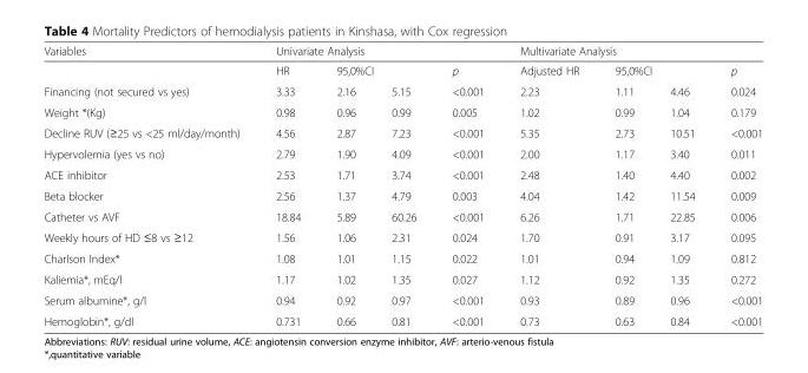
<table><thead><tr><td rowspan="3">Variables Financing (not secured vs yes)</td><td colspan="4">Univariate Analysis</td><td colspan="4">Multivariate Analysis</td></tr><tr><td rowspan="2">HR 3.33</td><td colspan="2">95,0%CI</td><td rowspan="2">p &lt;0.001</td><td rowspan="2">Adjusted HR 2.23</td><td colspan="2">95,0%CI</td><td rowspan="2">p 0.024</td></tr><tr><td>2.16</td><td>5.15</td><td>1.11</td><td>4.46</td></tr></thead><tbody><tr><td>Weight *(Kg)</td><td>0.98</td><td>0.96</td><td>0.99</td><td>0.005</td><td>1.02</td><td>0.99</td><td>1.04</td><td>0.179</td></tr><tr><td>Decline RUV (≥25 vs &lt;25 ml/day/month)</td><td>4.56</td><td>2.87</td><td>7.23</td><td>&lt;0.001</td><td>5.35</td><td>2.73</td><td>10.51</td><td>&lt;0.001</td></tr><tr><td>Hypervolemia (yes vs no)</td><td>2.79</td><td>1.90</td><td>4.09</td><td>&lt;0.001</td><td>2.00</td><td>1.17</td><td>3.40</td><td>0.011</td></tr><tr><td>ACE inhibitor</td><td>2.53</td><td>1.71</td><td>3.74</td><td>&lt;0.001</td><td>2.48</td><td>1.40</td><td>4.40</td><td>0.002</td></tr><tr><td>Beta blocker</td><td>2.56</td><td>1.37</td><td>4.79</td><td>0.003</td><td>4.04</td><td>1.42</td><td>11.54</td><td>0.009</td></tr><tr><td>Catheter vs AVF</td><td>18.84</td><td>5.89</td><td>60.26</td><td>&lt;0.001</td><td>6.26</td><td>1.71</td><td>22.85</td><td>0.006</td></tr><tr><td>Weekly hours of HD ≤8 vs ≥12</td><td>1.56</td><td>1.06</td><td>2.31</td><td>0.024</td><td>1.70</td><td>0.91</td><td>3.17</td><td>0.095</td></tr><tr><td>Charlson Index*</td><td>1.08</td><td>1.01</td><td>1.15</td><td>0.022</td><td>1.01</td><td>0.94</td><td>1.09</td><td>0.812</td></tr><tr><td>Kaliemia*, mEq/l</td><td>1.17</td><td>1.02</td><td>1.35</td><td>0.027</td><td>1.12</td><td>0.92</td><td>1.35</td><td>0.272</td></tr><tr><td>Serum albumine*, g/l</td><td>0.94</td><td>0.92</td><td>0.97</td><td>&lt;0.001</td><td>0.93</td><td>0.89</td><td>0.96</td><td>&lt;0.001</td></tr><tr><td>Hemoglobin*, g/dl</td><td>0.731</td><td>0.66</td><td>0.81</td><td>&lt;0.001</td><td>0.73</td><td>0.63</td><td>0.84</td><td>&lt;0.001</td></tr></tbody></table>